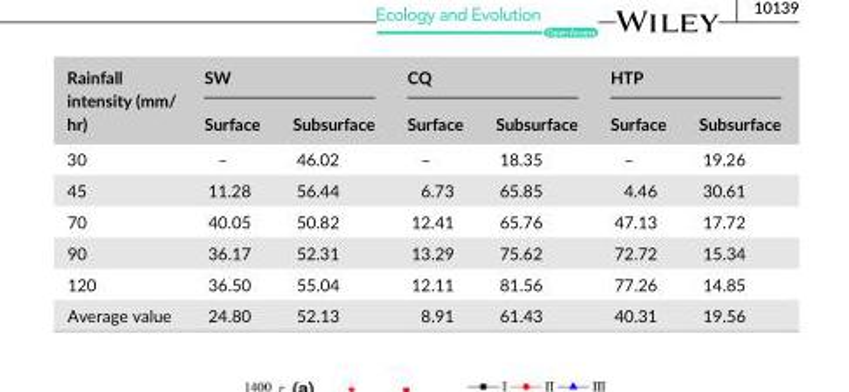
<table><thead><tr><td rowspan="2">Rainfall intensity (mm/ hr)</td><td colspan="2">SW</td><td colspan="2">CQ</td><td colspan="2">HTP</td></tr><tr><td>Surface</td><td>Subsurface</td><td>Surface</td><td>Subsurface</td><td>Surface</td><td>Subsurface</td></tr></thead><tbody><tr><td>30</td><td>–</td><td>46.02</td><td>–</td><td>18.35</td><td>–</td><td>19.26</td></tr><tr><td>45</td><td>11.28</td><td>56.44</td><td>6.73</td><td>65.85</td><td>4.46</td><td>30.61</td></tr><tr><td>70</td><td>40.05</td><td>50.82</td><td>12.41</td><td>65.76</td><td>47.13</td><td>17.72</td></tr><tr><td>90</td><td>36.17</td><td>52.31</td><td>13.29</td><td>75.62</td><td>72.72</td><td>15.34</td></tr><tr><td>120</td><td>36.50</td><td>55.04</td><td>12.11</td><td>81.56</td><td>77.26</td><td>14.85</td></tr><tr><td>Average value</td><td>24.80</td><td>52.13</td><td>8.91</td><td>61.43</td><td>40.31</td><td>19.56</td></tr></tbody></table>